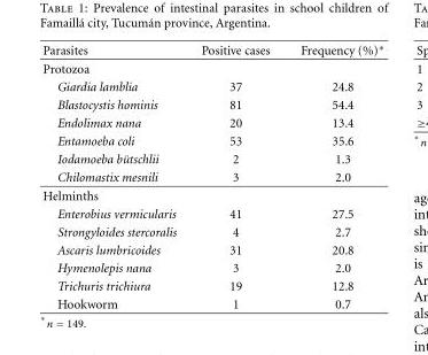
<table><thead><tr><td>Parasites</td><td>Positive cases</td><td>Frequency (%)∗</td></tr></thead><tbody><tr><td colspan="3">Protozoa</td></tr><tr><td>Giardia lamblia</td><td>37</td><td>24.8</td></tr><tr><td>Blastocystis hominis</td><td>81</td><td>54.4</td></tr><tr><td>Endolimax nana</td><td>20</td><td>13.4</td></tr><tr><td>Entamoeba coli</td><td>53</td><td>35.6</td></tr><tr><td>Iodamoeba b¨utschlii</td><td>2</td><td>1.3</td></tr><tr><td>Chilomastix mesnili</td><td>3</td><td>2.0</td></tr><tr><td colspan="3">Helminths</td></tr><tr><td>Enterobius vermicularis</td><td>41</td><td>27.5</td></tr><tr><td>Strongyloides stercoralis</td><td>4</td><td>2.7</td></tr><tr><td>Ascaris lumbricoides</td><td>31</td><td>20.8</td></tr><tr><td>Hymenolepis nana</td><td>3</td><td>2.0</td></tr><tr><td>Trichuris trichiura</td><td>19</td><td>12.8</td></tr><tr><td>Hookworm</td><td>1</td><td>0.7</td></tr></tbody></table>